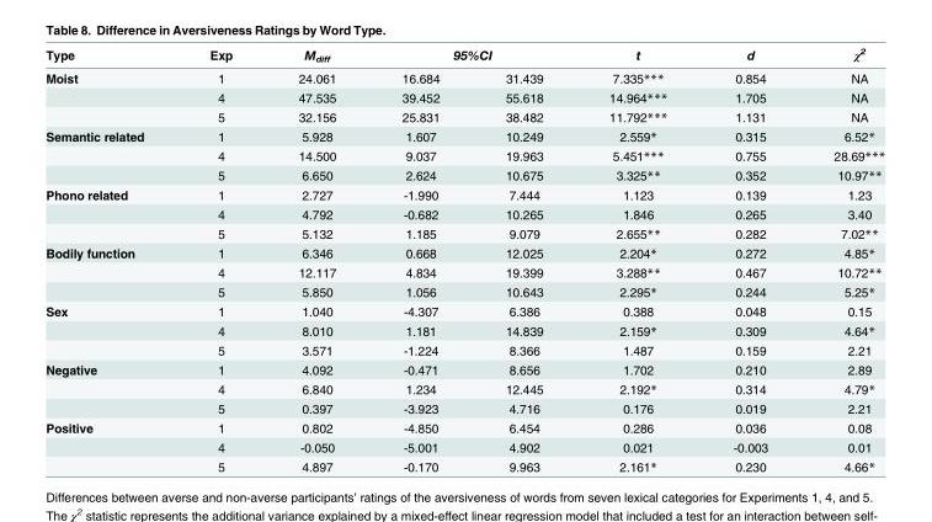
<table><thead><tr><td rowspan="2">Type Moist</td><td rowspan="2">Exp 1</td><td rowspan="2">M<sub>diff</sub> 24.061</td><td colspan="2">95%CI</td><td rowspan="2">t 7.335***</td><td rowspan="2">d 0.854</td><td rowspan="2">χ<sup>2</sup> NA</td></tr><tr><td>16.684</td><td>31.439</td></tr></thead><tbody><tr><td></td><td>4</td><td>47.535</td><td>39.452</td><td>55.618</td><td>14.964***</td><td>1.705</td><td>NA</td></tr><tr><td></td><td>5</td><td>32.156</td><td>25.831</td><td>38.482</td><td>11.792***</td><td>1.131</td><td>NA</td></tr><tr><td rowspan="3">Semantic related</td><td>1</td><td>5.928</td><td>1.607</td><td>10.249</td><td>2.559*</td><td>0.315</td><td>6.52*</td></tr><tr><td>4</td><td>14.500</td><td>9.037</td><td>19.963</td><td>5.451***</td><td>0.755</td><td>28.69***</td></tr><tr><td>5</td><td>6.650</td><td>2.624</td><td>10.675</td><td>3.325**</td><td>0.352</td><td>10.97**</td></tr><tr><td rowspan="3">Phono related</td><td>1</td><td>2.727</td><td>-1.990</td><td>7.444</td><td>1.123</td><td>0.139</td><td>1.23</td></tr><tr><td>4</td><td>4.792</td><td>-0.682</td><td>10.265</td><td>1.846</td><td>0.265</td><td>3.40</td></tr><tr><td>5</td><td>5.132</td><td>1.185</td><td>9.079</td><td>2.655**</td><td>0.282</td><td>7.02**</td></tr><tr><td rowspan="3">Bodily function</td><td>1</td><td>6.346</td><td>0.668</td><td>12.025</td><td>2.204*</td><td>0.272</td><td>4.85*</td></tr><tr><td>4</td><td>12.117</td><td>4.834</td><td>19.399</td><td>3.288**</td><td>0.467</td><td>10.72**</td></tr><tr><td>5</td><td>5.850</td><td>1.056</td><td>10.643</td><td>2.295*</td><td>0.244</td><td>5.25*</td></tr><tr><td rowspan="3">Sex</td><td>1</td><td>1.040</td><td>-4.307</td><td>6.386</td><td>0.388</td><td>0.048</td><td>0.15</td></tr><tr><td>4</td><td>8.010</td><td>1.181</td><td>14.839</td><td>2.159*</td><td>0.309</td><td>4.64*</td></tr><tr><td>5</td><td>3.571</td><td>-1.224</td><td>8.366</td><td>1.487</td><td>0.159</td><td>2.21</td></tr><tr><td rowspan="3">Negative</td><td>1</td><td>4.092</td><td>-0.471</td><td>8.656</td><td>1.702</td><td>0.210</td><td>2.89</td></tr><tr><td>4</td><td>6.840</td><td>1.234</td><td>12.445</td><td>2.192*</td><td>0.314</td><td>4.79*</td></tr><tr><td>5</td><td>0.397</td><td>-3.923</td><td>4.716</td><td>0.176</td><td>0.019</td><td>2.21</td></tr><tr><td rowspan="3">Positive</td><td>1</td><td>0.802</td><td>-4.850</td><td>6.454</td><td>0.286</td><td>0.036</td><td>0.08</td></tr><tr><td>4</td><td>-0.050</td><td>-5.001</td><td>4.902</td><td>0.021</td><td>-0.003</td><td>0.01</td></tr><tr><td>5</td><td>4.897</td><td>-0.170</td><td>9.963</td><td>2.161*</td><td>0.230</td><td>4.66*</td></tr></tbody></table>